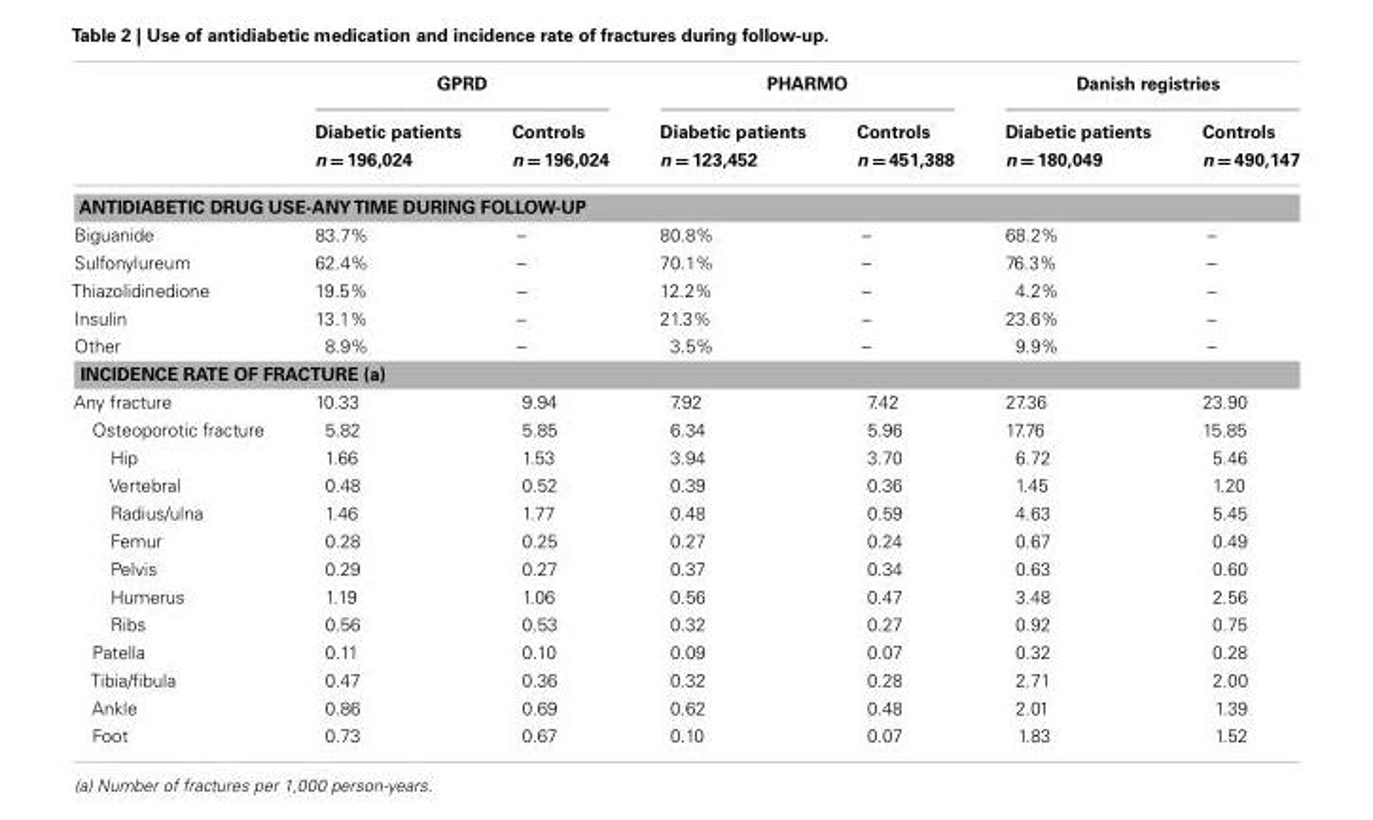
<table><thead><tr><td rowspan="3"></td><td colspan="2">GPRD</td><td colspan="2">PHARMO</td><td colspan="2">Danish registries</td></tr><tr><td rowspan="2">Diabetic patients n = 196,024</td><td rowspan="2">Controls n = 196,024</td><td rowspan="2">Diabetic patients n = 123,452</td><td rowspan="2">Controls n = 451,388</td><td rowspan="2">Diabetic patients n = 180,049</td><td rowspan="2">Controls n = 490,147</td></tr><tr></tr></thead><tbody><tr><td colspan="7">ANTIDIABETIC DRUG USE-ANYTIME DURING FOLLOW-UP</td></tr><tr><td>Biguanide</td><td>83.7%</td><td>–</td><td>80.8%</td><td>–</td><td>68.2%</td><td>–</td></tr><tr><td>Sulfonylureum</td><td>62.4%</td><td>–</td><td>70.1%</td><td>–</td><td>76.3%</td><td>–</td></tr><tr><td>Thiazolidinedione</td><td>19.5%</td><td>–</td><td>12.2%</td><td>–</td><td>4.2%</td><td>–</td></tr><tr><td>Insulin</td><td>13.1%</td><td>–</td><td>21.3%</td><td>–</td><td>23.6%</td><td>–</td></tr><tr><td>Other</td><td>8.9%</td><td>–</td><td>3.5%</td><td>–</td><td>9.9%</td><td>–</td></tr><tr><td colspan="7">INCIDENCE RATE OF FRACTURE (a)</td></tr><tr><td>Any fracture</td><td>10.33</td><td>9.94</td><td>7.92</td><td>7.42</td><td>27.36</td><td>23.90</td></tr><tr><td>Osteoporotic fracture</td><td>5.82</td><td>5.85</td><td>6.34</td><td>5.96</td><td>17.76</td><td>15.85</td></tr><tr><td>Hip</td><td>1.66</td><td>1.53</td><td>3.94</td><td>3.70</td><td>6.72</td><td>5.46</td></tr><tr><td>Vertebral</td><td>0.48</td><td>0.52</td><td>0.39</td><td>0.36</td><td>1.45</td><td>1.20</td></tr><tr><td>Radius/ulna</td><td>1.46</td><td>1.77</td><td>0.48</td><td>0.59</td><td>4.63</td><td>5.45</td></tr><tr><td>Femur</td><td>0.28</td><td>0.25</td><td>0.27</td><td>0.24</td><td>0.67</td><td>0.49</td></tr><tr><td>Pelvis</td><td>0.29</td><td>0.27</td><td>0.37</td><td>0.34</td><td>0.63</td><td>0.60</td></tr><tr><td>Humerus</td><td>1.19</td><td>1.06</td><td>0.56</td><td>0.47</td><td>3.48</td><td>2.56</td></tr><tr><td>Ribs</td><td>0.56</td><td>0.53</td><td>0.32</td><td>0.27</td><td>0.92</td><td>0.75</td></tr><tr><td>Patella</td><td>0.11</td><td>0.10</td><td>0.09</td><td>0.07</td><td>0.32</td><td>0.28</td></tr><tr><td>Tibia/fibula</td><td>0.47</td><td>0.36</td><td>0.32</td><td>0.28</td><td>2.71</td><td>2.00</td></tr><tr><td>Ankle</td><td>0.86</td><td>0.69</td><td>0.62</td><td>0.48</td><td>2.01</td><td>1.39</td></tr><tr><td>Foot</td><td>0.73</td><td>0.67</td><td>0.10</td><td>0.07</td><td>1.83</td><td>1.52</td></tr></tbody></table>